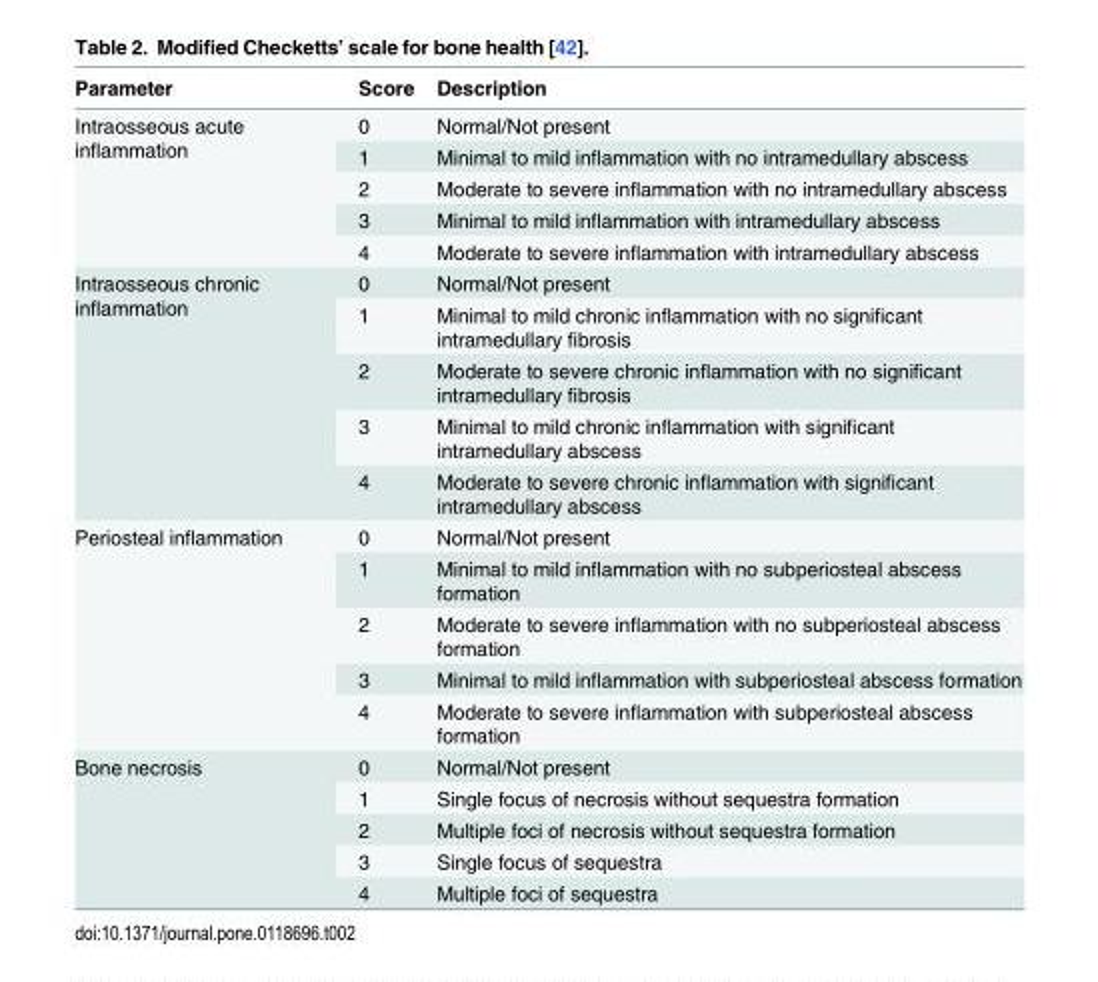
<table><thead><tr><td>Parameter</td><td>Score</td><td>Description</td></tr></thead><tbody><tr><td rowspan="5">Intraosseous acute inflammation</td><td>0</td><td>Normal/Not present</td></tr><tr><td>1</td><td>Minimal to mild inflammation with no intramedullary abscess</td></tr><tr><td>2</td><td>Moderate to severe inflammation with no intramedullary abscess</td></tr><tr><td>3</td><td>Minimal to mild inflammation with intramedullary abscess</td></tr><tr><td>4</td><td>Moderate to severe inflammation with intramedullary abscess</td></tr><tr><td rowspan="5">Intraosseous chronic inflammation</td><td>0</td><td>Normal/Not present</td></tr><tr><td>1</td><td>Minimal to mild chronic inflammation with no significant intramedullary fibrosis</td></tr><tr><td>2</td><td>Moderate to severe chronic inflammation with no significant intramedullary fibrosis</td></tr><tr><td>3</td><td>Minimal to mild chronic inflammation with significant intramedullary abscess</td></tr><tr><td>4</td><td>Moderate to severe chronic inflammation with significant intramedullary abscess</td></tr><tr><td rowspan="5">Periosteal inflammation</td><td>0</td><td>Normal/Not present</td></tr><tr><td>1</td><td>Minimal to mild inflammation with no subperiosteal abscess formation</td></tr><tr><td>2</td><td>Moderate to severe inflammation with no subperiosteal abscess formation</td></tr><tr><td>3</td><td>Minimal to mild inflammation with subperiosteal abscess formation</td></tr><tr><td>4</td><td>Moderate to severe inflammation with subperiosteal abscess formation</td></tr><tr><td rowspan="5">Bone necrosis</td><td>0</td><td>Normal/Not present</td></tr><tr><td>1</td><td>Single focus of necrosis without sequestra formation</td></tr><tr><td>2</td><td>Multiple foci of necrosis without sequestra formation</td></tr><tr><td>3</td><td>Single focus of sequestra</td></tr><tr><td>4</td><td>Multiple foci of sequestra</td></tr></tbody></table>